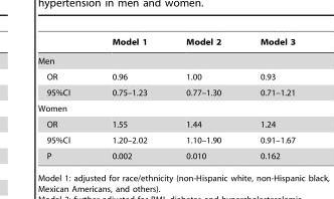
<table><thead><tr><td></td><td>Model 1</td><td>Model 2</td><td>Model 3</td></tr></thead><tbody><tr><td colspan="4">Men</td></tr><tr><td>OR</td><td>0.96</td><td>1.00</td><td>0.93</td></tr><tr><td>95%CI</td><td>0.75–1.23</td><td>0.77–1.30</td><td>0.71–1.21</td></tr><tr><td colspan="4">Women</td></tr><tr><td>OR</td><td>1.55</td><td>1.44</td><td>1.24</td></tr><tr><td>95%CI</td><td>1.20–2.02</td><td>1.10–1.90</td><td>0.91–1.67</td></tr><tr><td>P</td><td>0.002</td><td>0.010</td><td>0.162</td></tr></tbody></table>